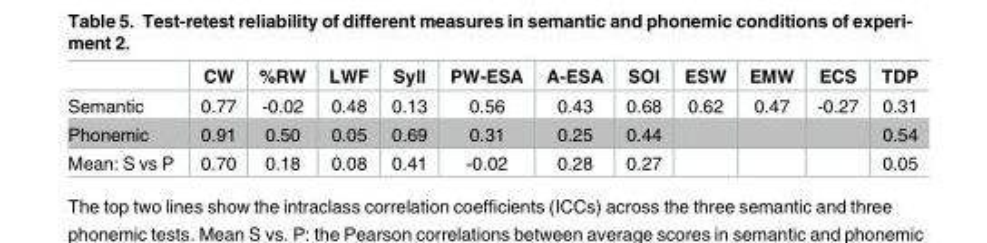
<table><thead><tr><td></td><td>CW</td><td>%RW</td><td>LWF</td><td>Syll</td><td>PW-ESA</td><td>A-ESA</td><td>SOI</td><td>ESW</td><td>EMW</td><td>ECS</td><td>TDP</td></tr></thead><tbody><tr><td>Semantic</td><td>0.77</td><td>-0.02</td><td>0.48</td><td>0.13</td><td>0.56</td><td>0.43</td><td>0.68</td><td>0.62</td><td>0.47</td><td>-0.27</td><td>0.31</td></tr><tr><td>Phonemic</td><td>0.91</td><td>0.50</td><td>0.05</td><td>0.69</td><td>0.31</td><td>0.25</td><td>0.44</td><td></td><td></td><td></td><td>0.54</td></tr><tr><td>Mean: S vs P</td><td>0.70</td><td>0.18</td><td>0.08</td><td>0.41</td><td>-0.02</td><td>0.28</td><td>0.27</td><td></td><td></td><td></td><td>0.05</td></tr></tbody></table>